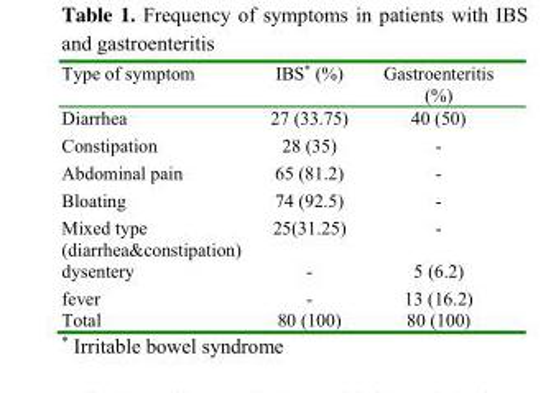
<table><thead><tr><td>Type of symptom</td><td>IBS* (%)</td><td>Gastroenteritis (%)</td></tr></thead><tbody><tr><td>Diarrhea</td><td>27 (33.75)</td><td>40 (50)</td></tr><tr><td>Constipation</td><td>28 (35)</td><td>-</td></tr><tr><td>Abdominal pain</td><td>65 (81.2)</td><td>-</td></tr><tr><td>Bloating</td><td>74 (92.5)</td><td>-</td></tr><tr><td>Mixed type (diarrhea&amp;constipation)</td><td>25(31.25)</td><td>-</td></tr><tr><td>dysentery</td><td>-</td><td>5 (6.2)</td></tr><tr><td>fever</td><td>-</td><td>13 (16.2)</td></tr><tr><td>Total</td><td>80 (100)</td><td>80 (100)</td></tr></tbody></table>